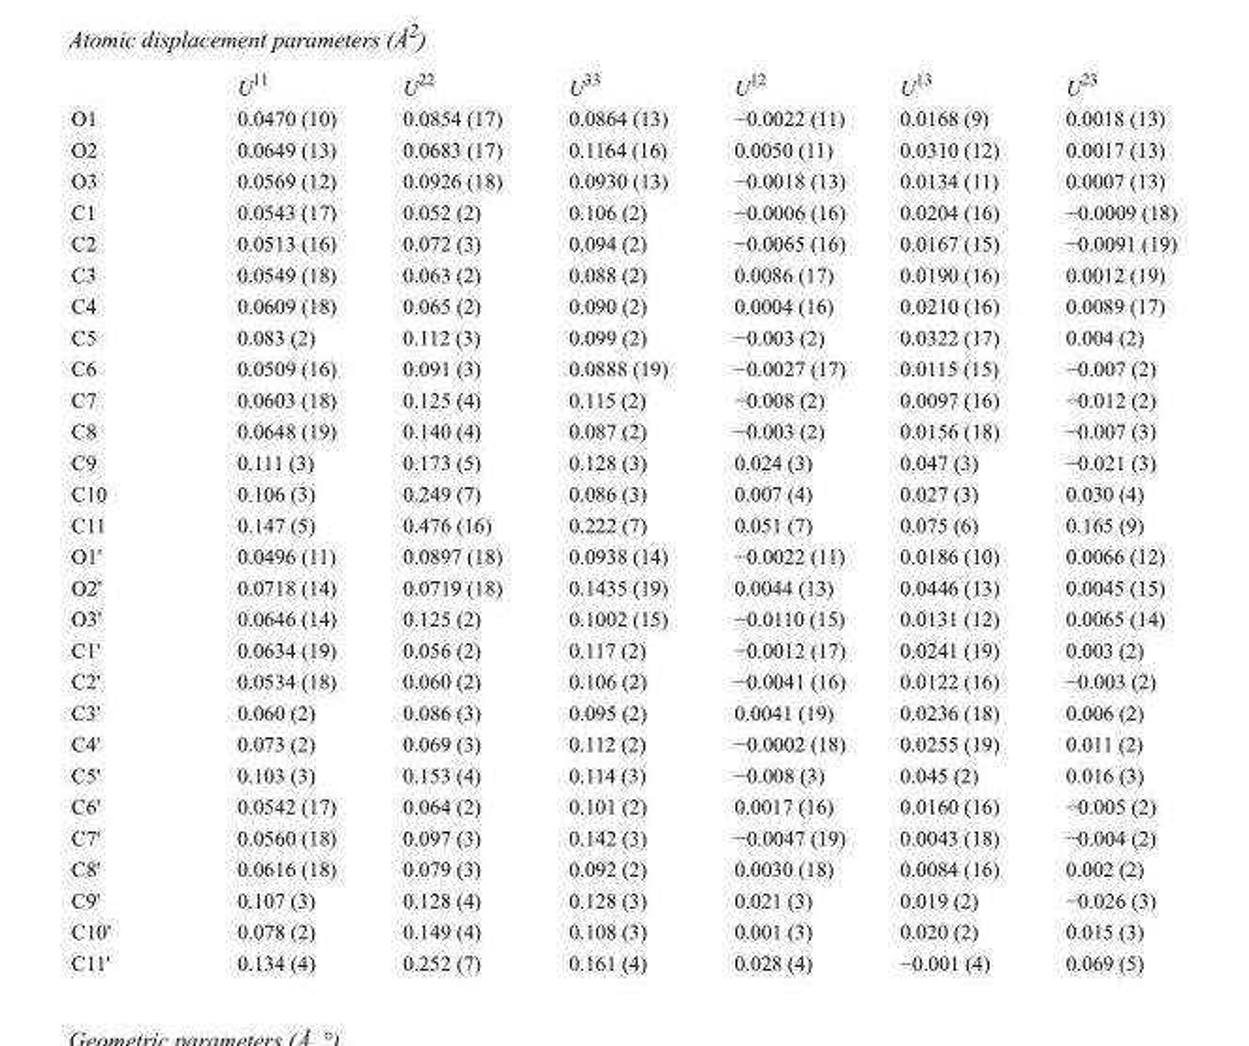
<table><thead><tr><td></td><td>U<sup>11</sup></td><td>U<sup>22</sup></td><td>U<sup>33</sup></td><td>U<sup>12</sup></td><td>U<sup>13</sup></td><td>U<sup>23</sup></td></tr></thead><tbody><tr><td>O1</td><td>0.0470 (10)</td><td>0.0854 (17)</td><td>0.0864 (13)</td><td>−0.0022 (11)</td><td>0.0168 (9)</td><td>0.0018 (13)</td></tr><tr><td>O2</td><td>0.0649 (13)</td><td>0.0683 (17)</td><td>0.1164 (16)</td><td>0.0050 (11)</td><td>0.0310 (12)</td><td>0.0017 (13)</td></tr><tr><td>O3</td><td>0.0569 (12)</td><td>0.0926 (18)</td><td>0.0930 (13)</td><td>−0.0018 (13)</td><td>0.0134 (11)</td><td>0.0007 (13)</td></tr><tr><td>C1</td><td>0.0543 (17)</td><td>0.052 (2)</td><td>0.106 (2)</td><td>−0.0006 (16)</td><td>0.0204 (16)</td><td>−0.0009 (18)</td></tr><tr><td>C2</td><td>0.0513 (16)</td><td>0.072 (3)</td><td>0.094 (2)</td><td>−0.0065 (16)</td><td>0.0167 (15)</td><td>−0.0091 (19)</td></tr><tr><td>C3</td><td>0.0549 (18)</td><td>0.063 (2)</td><td>0.088 (2)</td><td>0.0086 (17)</td><td>0.0190 (16)</td><td>0.0012 (19)</td></tr><tr><td>C4</td><td>0.0609 (18)</td><td>0.065 (2)</td><td>0.090 (2)</td><td>0.0004 (16)</td><td>0.0210 (16)</td><td>0.0089 (17)</td></tr><tr><td>C5</td><td>0.083 (2)</td><td>0.112 (3)</td><td>0.099 (2)</td><td>−0.003 (2)</td><td>0.0322 (17)</td><td>0.004 (2)</td></tr><tr><td>C6</td><td>0.0509 (16)</td><td>0.091 (3)</td><td>0.0888 (19)</td><td>−0.0027 (17)</td><td>0.0115 (15)</td><td>−0.007 (2)</td></tr><tr><td>C7</td><td>0.0603 (18)</td><td>0.125 (4)</td><td>0.115 (2)</td><td>−0.008 (2)</td><td>0.0097 (16)</td><td>−0.012 (2)</td></tr><tr><td>C8</td><td>0.0648 (19)</td><td>0.140 (4)</td><td>0.087 (2)</td><td>−0.003 (2)</td><td>0.0156 (18)</td><td>−0.007 (3)</td></tr><tr><td>C9</td><td>0.111 (3)</td><td>0.173 (5)</td><td>0.128 (3)</td><td>0.024 (3)</td><td>0.047 (3)</td><td>−0.021 (3)</td></tr><tr><td>C10</td><td>0.106 (3)</td><td>0.249 (7)</td><td>0.086 (3)</td><td>0.007 (4)</td><td>0.027 (3)</td><td>0.030 (4)</td></tr><tr><td>C11</td><td>0.147 (5)</td><td>0.476 (16)</td><td>0.222 (7)</td><td>0.051 (7)</td><td>0.075 (6)</td><td>0.165 (9)</td></tr><tr><td>O1&#x27;</td><td>0.0496 (11)</td><td>0.0897 (18)</td><td>0.0938 (14)</td><td>−0.0022 (11)</td><td>0.0186 (10)</td><td>0.0066 (12)</td></tr><tr><td>O2&#x27;</td><td>0.0718 (14)</td><td>0.0719 (18)</td><td>0.1435 (19)</td><td>0.0044 (13)</td><td>0.0446 (13)</td><td>0.0045 (15)</td></tr><tr><td>O3&#x27;</td><td>0.0646 (14)</td><td>0.125 (2)</td><td>0.1002 (15)</td><td>−0.0110 (15)</td><td>0.0131 (12)</td><td>0.0065 (14)</td></tr><tr><td>C1&#x27;</td><td>0.0634 (19)</td><td>0.056 (2)</td><td>0.117 (2)</td><td>−0.0012 (17)</td><td>0.0241 (19)</td><td>0.003 (2)</td></tr><tr><td>C2&#x27;</td><td>0.0534 (18)</td><td>0.060 (2)</td><td>0.106 (2)</td><td>−0.0041 (16)</td><td>0.0122 (16)</td><td>−0.003 (2)</td></tr><tr><td>C3&#x27;</td><td>0.060 (2)</td><td>0.086 (3)</td><td>0.095 (2)</td><td>0.0041 (19)</td><td>0.0236 (18)</td><td>0.006 (2)</td></tr><tr><td>C4&#x27;</td><td>0.073 (2)</td><td>0.069 (3)</td><td>0.112 (2)</td><td>−0.0002 (18)</td><td>0.0255 (19)</td><td>0.011 (2)</td></tr><tr><td>C5&#x27;</td><td>0.103 (3)</td><td>0.153 (4)</td><td>0.114 (3)</td><td>−0.008 (3)</td><td>0.045 (2)</td><td>0.016 (3)</td></tr><tr><td>C6&#x27;</td><td>0.0542 (17)</td><td>0.064 (2)</td><td>0.101 (2)</td><td>0.0017 (16)</td><td>0.0160 (16)</td><td>−0.005 (2)</td></tr><tr><td>C7&#x27;</td><td>0.0560 (18)</td><td>0.097 (3)</td><td>0.142 (3)</td><td>−0.0047 (19)</td><td>0.0043 (18)</td><td>−0.004 (2)</td></tr><tr><td>C8&#x27;</td><td>0.0616 (18)</td><td>0.079 (3)</td><td>0.092 (2)</td><td>0.0030 (18)</td><td>0.0084 (16)</td><td>0.002 (2)</td></tr><tr><td>C9&#x27;</td><td>0.107 (3)</td><td>0.128 (4)</td><td>0.128 (3)</td><td>0.021 (3)</td><td>0.019 (2)</td><td>−0.026 (3)</td></tr><tr><td>C10&#x27;</td><td>0.078 (2)</td><td>0.149 (4)</td><td>0.108 (3)</td><td>0.001 (3)</td><td>0.020 (2)</td><td>0.015 (3)</td></tr><tr><td>C11&#x27;</td><td>0.134 (4)</td><td>0.252 (7)</td><td>0.161 (4)</td><td>0.028 (4)</td><td>−0.001 (4)</td><td>0.069 (5)</td></tr></tbody></table>